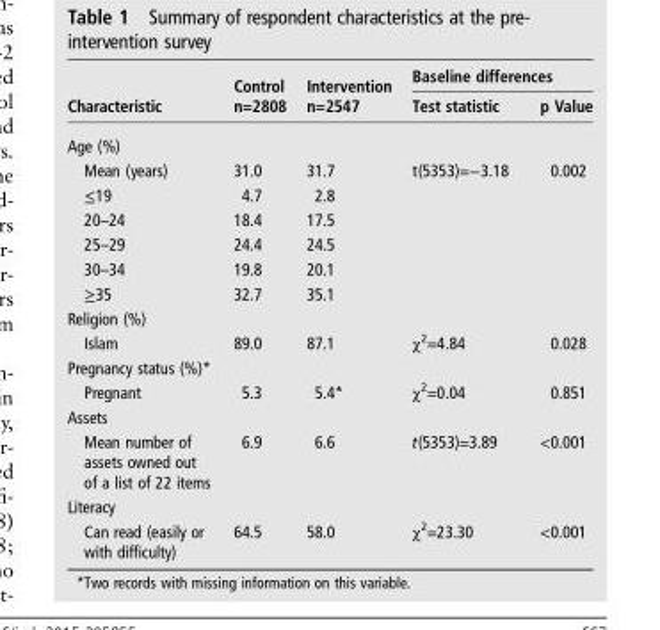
<table><thead><tr><td rowspan="2">Characteristic</td><td rowspan="2">Control n=2808</td><td rowspan="2">Intervention n=2547</td><td colspan="2">Baseline differences</td></tr><tr><td>Test statistic</td><td>p Value</td></tr></thead><tbody><tr><td colspan="5">Age (%)</td></tr><tr><td>Mean (years)</td><td>31.0</td><td>31.7</td><td>t(5353)=−3.18</td><td>0.002</td></tr><tr><td>≤19</td><td>4.7</td><td>2.8</td><td></td><td></td></tr><tr><td>20–24</td><td>18.4</td><td>17.5</td><td></td><td></td></tr><tr><td>25–29</td><td>24.4</td><td>24.5</td><td></td><td></td></tr><tr><td>30–34</td><td>19.8</td><td>20.1</td><td></td><td></td></tr><tr><td>≥35</td><td>32.7</td><td>35.1</td><td></td><td></td></tr><tr><td colspan="5">Religion (%)</td></tr><tr><td>Islam</td><td>89.0</td><td>87.1</td><td>χ<sup>2</sup>=4.84</td><td>0.028</td></tr><tr><td colspan="5">Pregnancy status (%)*</td></tr><tr><td>Pregnant</td><td>5.3</td><td>5.4*</td><td>χ<sup>2</sup>=0.04</td><td>0.851</td></tr><tr><td colspan="5">Assets</td></tr><tr><td>Mean number of assets owned out of a list of 22 items</td><td>6.9</td><td>6.6</td><td>t(5353)=3.89</td><td>&lt;0.001</td></tr><tr><td colspan="5">Literacy</td></tr><tr><td>Can read (easily or with difficulty)</td><td>64.5</td><td>58.0</td><td>χ<sup>2</sup>=23.30</td><td>&lt;0.001</td></tr></tbody></table>